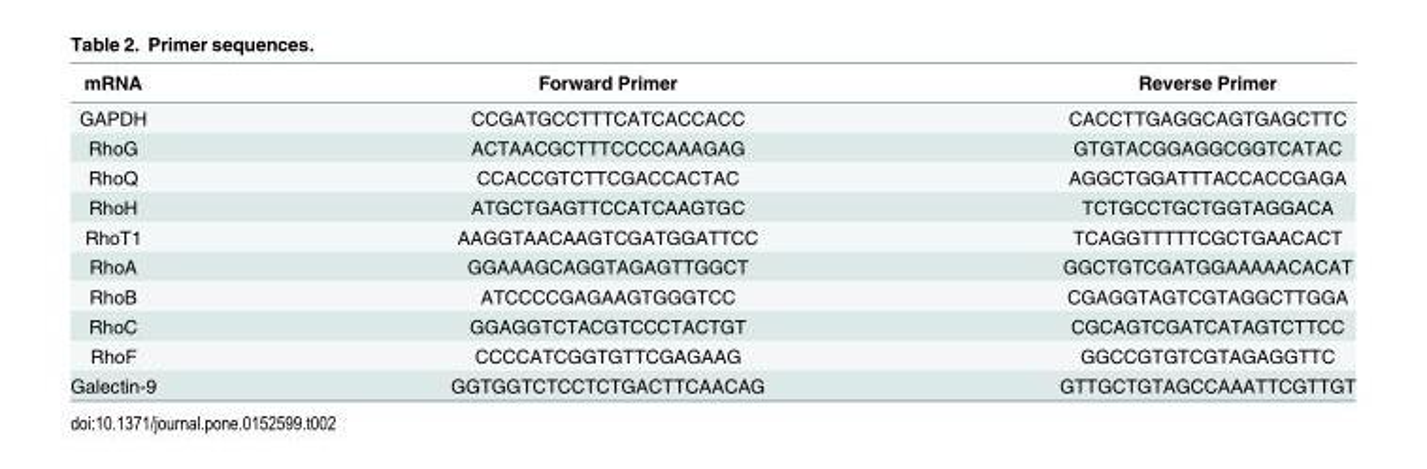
<table><thead><tr><td>mRNA</td><td>Forward Primer</td><td>Reverse Primer</td></tr></thead><tbody><tr><td>GAPDH</td><td>CCGATGCCTTTCATCACCACC</td><td>CACCTTGAGGCAGTGAGCTTC</td></tr><tr><td>RhoG</td><td>ACTAACGCTTTCCCCAAAGAG</td><td>GTGTACGGAGGCGGTCATAC</td></tr><tr><td>RhoQ</td><td>CCACCGTCTTCGACCACTAC</td><td>AGGCTGGATTTACCACCGAGA</td></tr><tr><td>RhoH</td><td>ATGCTGAGTTCCATCAAGTGC</td><td>TCTGCCTGCTGGTAGGACA</td></tr><tr><td>RhoT1</td><td>AAGGTAACAAGTCGATGGATTCC</td><td>TCAGGTTTTTCGCTGAACACT</td></tr><tr><td>RhoA</td><td>GGAAAGCAGGTAGAGTTGGCT</td><td>GGCTGTCGATGGAAAAACACAT</td></tr><tr><td>RhoB</td><td>ATCCCCGAGAAGTGGGTCC</td><td>CGAGGTAGTCGTAGGCTTGGA</td></tr><tr><td>RhoC</td><td>GGAGGTCTACGTCCCTACTGT</td><td>CGCAGTCGATCATAGTCTTCC</td></tr><tr><td>RhoF</td><td>CCCCATCGGTGTTCGAGAAG</td><td>GGCCGTGTCGTAGAGGTTC</td></tr><tr><td>Galectin-9</td><td>GGTGGTCTCCTCTGACTTCAACAG</td><td>GTTGCTGTAGCCAAATTCGTTGT</td></tr></tbody></table>